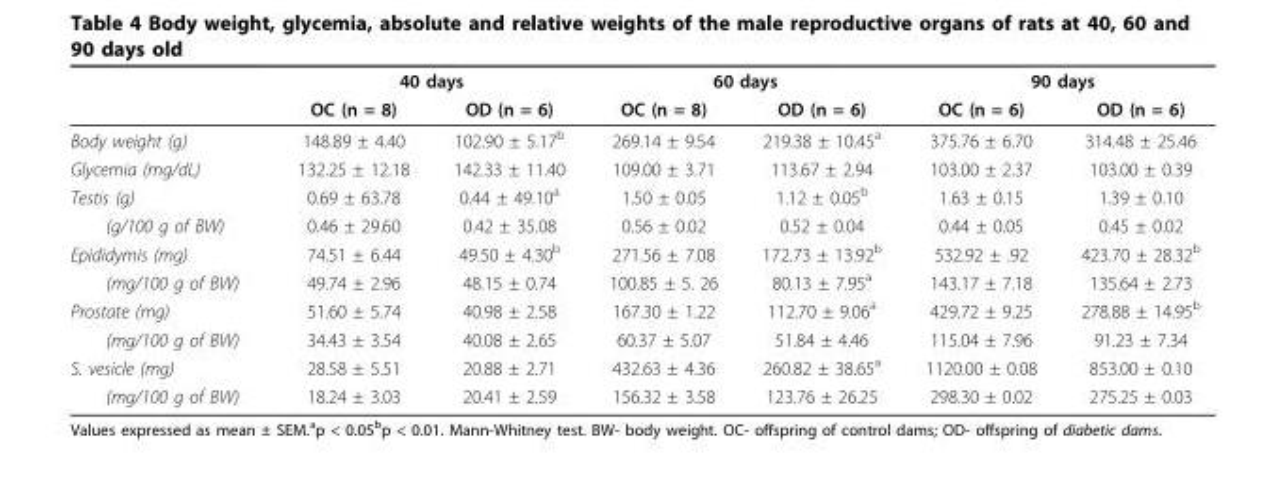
<table><thead><tr><td rowspan="2"></td><td colspan="2">40 days</td><td colspan="2">60 days</td><td colspan="2">90 days</td></tr><tr><td>OC (n = 8)</td><td>OD (n = 6)</td><td>OC (n = 8)</td><td>OD (n = 6)</td><td>OC (n = 6)</td><td>OD (n = 6)</td></tr></thead><tbody><tr><td>Body weight (g)</td><td>148.89 ± 4.40</td><td>102.90 ± 5.17<sup>b</sup></td><td>269.14 ± 9.54</td><td>219.38 ± 10.45<sup>a</sup></td><td>375.76 ± 6.70</td><td>314.48 ± 25.46</td></tr><tr><td>Glycemia (mg/dL)</td><td>132.25 ± 12.18</td><td>142.33 ± 11.40</td><td>109.00 ± 3.71</td><td>113.67 ± 2.94</td><td>103.00 ± 2.37</td><td>103.00 ± 0.39</td></tr><tr><td>Testis (g)</td><td>0.69 ± 63.78</td><td>0.44 ± 49.10<sup>a</sup></td><td>1.50 ± 0.05</td><td>1.12 ± 0.05<sup>b</sup></td><td>1.63 ± 0.15</td><td>1.39 ± 0.10</td></tr><tr><td>(g/100 g of BW)</td><td>0.46 ± 29.60</td><td>0.42 ± 35.08</td><td>0.56 ± 0.02</td><td>0.52 ± 0.04</td><td>0.44 ± 0.05</td><td>0.45 ± 0.02</td></tr><tr><td>Epididymis (mg)</td><td>74.51 ± 6.44</td><td>49.50 ± 4.30<sup>b</sup></td><td>271.56 ± 7.08</td><td>172.73 ± 13.92<sup>b</sup></td><td>532.92 ± .92</td><td>423.70 ± 28.32<sup>b</sup></td></tr><tr><td>(mg/100 g of BW)</td><td>49.74 ± 2.96</td><td>48.15 ± 0.74</td><td>100.85 ± 5. 26</td><td>80.13 ± 7.95<sup>a</sup></td><td>143.17 ± 7.18</td><td>135.64 ± 2.73</td></tr><tr><td>Prostate (mg)</td><td>51.60 ± 5.74</td><td>40.98 ± 2.58</td><td>167.30 ± 1.22</td><td>112.70 ± 9.06<sup>a</sup></td><td>429.72 ± 9.25</td><td>278.88 ± 14.95<sup>b</sup></td></tr><tr><td>(mg/100 g of BW)</td><td>34.43 ± 3.54</td><td>40.08 ± 2.65</td><td>60.37 ± 5.07</td><td>51.84 ± 4.46</td><td>115.04 ± 7.96</td><td>91.23 ± 7.34</td></tr><tr><td>S. vesicle (mg)</td><td>28.58 ± 5.51</td><td>20.88 ± 2.71</td><td>432.63 ± 4.36</td><td>260.82 ± 38.65<sup>a</sup></td><td>1120.00 ± 0.08</td><td>853.00 ± 0.10</td></tr><tr><td>(mg/100 g of BW)</td><td>18.24 ± 3.03</td><td>20.41 ± 2.59</td><td>156.32 ± 3.58</td><td>123.76 ± 26.25</td><td>298.30 ± 0.02</td><td>275.25 ± 0.03</td></tr></tbody></table>